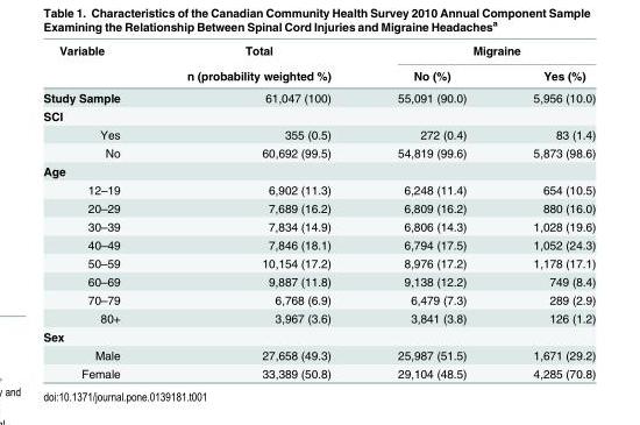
<table><thead><tr><td rowspan="2">Variable</td><td rowspan="2">Total n (probability weighted %)</td><td colspan="2">Migraine</td></tr><tr><td>No (%)</td><td>Yes (%)</td></tr></thead><tbody><tr><td>Study Sample</td><td>61,047 (100)</td><td>55,091 (90.0)</td><td>5,956 (10.0)</td></tr><tr><td colspan="4">SCI</td></tr><tr><td>Yes</td><td>355 (0.5)</td><td>272 (0.4)</td><td>83 (1.4)</td></tr><tr><td>No</td><td>60,692 (99.5)</td><td>54,819 (99.6)</td><td>5,873 (98.6)</td></tr><tr><td colspan="4">Age</td></tr><tr><td>12–19</td><td>6,902 (11.3)</td><td>6,248 (11.4)</td><td>654 (10.5)</td></tr><tr><td>20–29</td><td>7,689 (16.2)</td><td>6,809 (16.2)</td><td>880 (16.0)</td></tr><tr><td>30–39</td><td>7,834 (14.9)</td><td>6,806 (14.3)</td><td>1,028 (19.6)</td></tr><tr><td>40–49</td><td>7,846 (18.1)</td><td>6,794 (17.5)</td><td>1,052 (24.3)</td></tr><tr><td>50–59</td><td>10,154 (17.2)</td><td>8,976 (17.2)</td><td>1,178 (17.1)</td></tr><tr><td>60–69</td><td>9,887 (11.8)</td><td>9,138 (12.2)</td><td>749 (8.4)</td></tr><tr><td>70–79</td><td>6,768 (6.9)</td><td>6,479 (7.3)</td><td>289 (2.9)</td></tr><tr><td>80+</td><td>3,967 (3.6)</td><td>3,841 (3.8)</td><td>126 (1.2)</td></tr><tr><td colspan="4">Sex</td></tr><tr><td>Male</td><td>27,658 (49.3)</td><td>25,987 (51.5)</td><td>1,671 (29.2)</td></tr><tr><td>Female</td><td>33,389 (50.8)</td><td>29,104 (48.5)</td><td>4,285 (70.8)</td></tr></tbody></table>